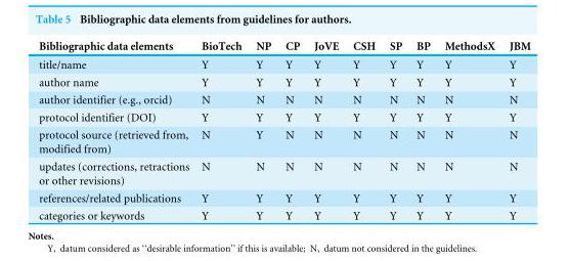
<table><thead><tr><td>Bibliographic data elements</td><td>BioTech</td><td>NP</td><td>CP</td><td>JoVE</td><td>CSH</td><td>SP</td><td>BP</td><td>MethodsX</td><td>JBM</td></tr></thead><tbody><tr><td>title/name</td><td>Y</td><td>Y</td><td>Y</td><td>Y</td><td>Y</td><td>Y</td><td>Y</td><td>Y</td><td>Y</td></tr><tr><td>author name</td><td>Y</td><td>Y</td><td>Y</td><td>Y</td><td>Y</td><td>Y</td><td>Y</td><td>Y</td><td>Y</td></tr><tr><td>author identifier (e.g., orcid)</td><td>N</td><td>N</td><td>N</td><td>N</td><td>N</td><td>N</td><td>N</td><td>N</td><td>N</td></tr><tr><td>protocol identifier (DOI)</td><td>Y</td><td>Y</td><td>Y</td><td>Y</td><td>Y</td><td>Y</td><td>Y</td><td>Y</td><td>Y</td></tr><tr><td>protocol source (retrieved from, modified from)</td><td>N</td><td>Y</td><td>N</td><td>N</td><td>N</td><td>N</td><td>N</td><td>N</td><td>N</td></tr><tr><td>updates (corrections, retractions or other revisions)</td><td>N</td><td>N</td><td>N</td><td>N</td><td>N</td><td>N</td><td>N</td><td>N</td><td>N</td></tr><tr><td>references/related publications</td><td>Y</td><td>Y</td><td>Y</td><td>Y</td><td>Y</td><td>Y</td><td>Y</td><td>Y</td><td>Y</td></tr><tr><td>categories or keywords</td><td>Y</td><td>Y</td><td>Y</td><td>Y</td><td>Y</td><td>Y</td><td>Y</td><td>Y</td><td>Y</td></tr></tbody></table>